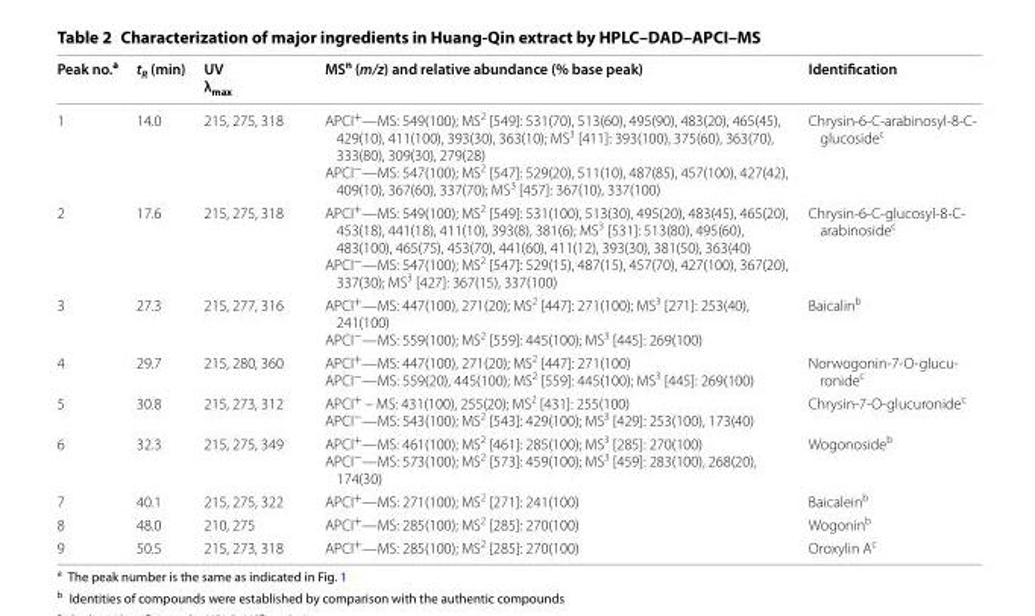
<table><thead><tr><td>Peak no.<sup>a</sup></td><td>t<sub>R</sub> (min)</td><td>UV λ<sub>max</sub></td><td>MS<sup>n</sup> (m/z) and relative abundance (% base peak)</td><td>Identification</td></tr></thead><tbody><tr><td>1</td><td>14.0</td><td>215, 275, 318</td><td>APCI<sup>+</sup>—MS: 549(100); MS<sup>2</sup> [549]: 531(70), 513(60), 495(90), 483(20), 465(45), 429(10), 411(100), 393(30), 363(10); MS<sup>3</sup> [411]: 393(100), 375(60), 363(70), 333(80), 309(30), 279(28) APCI<sup>−</sup>—MS: 547(100); MS<sup>2</sup> [547]: 529(20), 511(10), 487(85), 457(100), 427(42), 409(10), 367(60), 337(70); MS<sup>3</sup> [457]: 367(10), 337(100)</td><td>Chrysin‑6‑C‑arabinosyl‑8‑C‑ glucoside<sup>c</sup></td></tr><tr><td>2</td><td>17.6</td><td>215, 275, 318</td><td>APCI<sup>+</sup>—MS: 549(100); MS<sup>2</sup> [549]: 531(100), 513(30), 495(20), 483(45), 465(20), 453(18), 441(18), 411(10), 393(8), 381(6); MS<sup>3</sup> [531]: 513(80), 495(60), 483(100), 465(75), 453(70), 441(60), 411(12), 393(30), 381(50), 363(40) APCI<sup>−</sup>—MS: 547(100); MS<sup>2</sup> [547]: 529(15), 487(15), 457(70), 427(100), 367(20), 337(30); MS<sup>3</sup> [427]: 367(15), 337(100)</td><td>Chrysin‑6‑C‑glucosyl‑8‑C‑ arabinoside<sup>c</sup></td></tr><tr><td>3</td><td>27.3</td><td>215, 277, 316</td><td>APCI<sup>+</sup>—MS: 447(100), 271(20); MS<sup>2</sup> [447]: 271(100); MS<sup>3</sup> [271]: 253(40), 241(100) APCI<sup>−</sup>—MS: 559(100); MS<sup>2</sup> [559]: 445(100); MS<sup>3</sup> [445]: 269(100)</td><td>Baicalin<sup>b</sup></td></tr><tr><td>4</td><td>29.7</td><td>215, 280, 360</td><td>APCI<sup>+</sup>—MS: 447(100), 271(20); MS<sup>2</sup> [447]: 271(100) APCI<sup>−</sup>—MS: 559(20), 445(100); MS<sup>2</sup> [559]: 445(100); MS<sup>3</sup> [445]: 269(100)</td><td>Norwogonin‑7‑O‑glucu‑ ronidec</td></tr><tr><td>5</td><td>30.8</td><td>215, 273, 312</td><td>APCI<sup>+</sup> – MS: 431(100), 255(20); MS<sup>2</sup> [431]: 255(100) APCI<sup>−</sup>—MS: 543(100); MS<sup>2</sup> [543]: 429(100); MS<sup>3</sup> [429]: 253(100), 173(40)</td><td>Chrysin‑7‑O‑glucuronide<sup>c</sup></td></tr><tr><td>6</td><td>32.3</td><td>215, 275, 349</td><td>APCI<sup>+</sup>—MS: 461(100); MS<sup>2</sup> [461]: 285(100); MS<sup>3</sup> [285]: 270(100) APCI<sup>−</sup>—MS: 573(100); MS<sup>2</sup> [573]: 459(100); MS<sup>3</sup> [459]: 283(100), 268(20), 174(30)</td><td>Wogonoside<sup>b</sup></td></tr><tr><td>7</td><td>40.1</td><td>215, 275, 322</td><td>APCI<sup>+</sup>—MS: 271(100); MS<sup>2</sup> [271]: 241(100)</td><td>Baicalein<sup>b</sup></td></tr><tr><td>8</td><td>48.0</td><td>210, 275</td><td>APCI<sup>+</sup>—MS: 285(100); MS<sup>2</sup> [285]: 270(100)</td><td>Wogonin<sup>b</sup></td></tr><tr><td>9</td><td>50.5</td><td>215, 273, 318</td><td>APCI<sup>+</sup>—MS: 285(100); MS<sup>2</sup> [285]: 270(100)</td><td>Oroxylin A<sup>c</sup></td></tr></tbody></table>